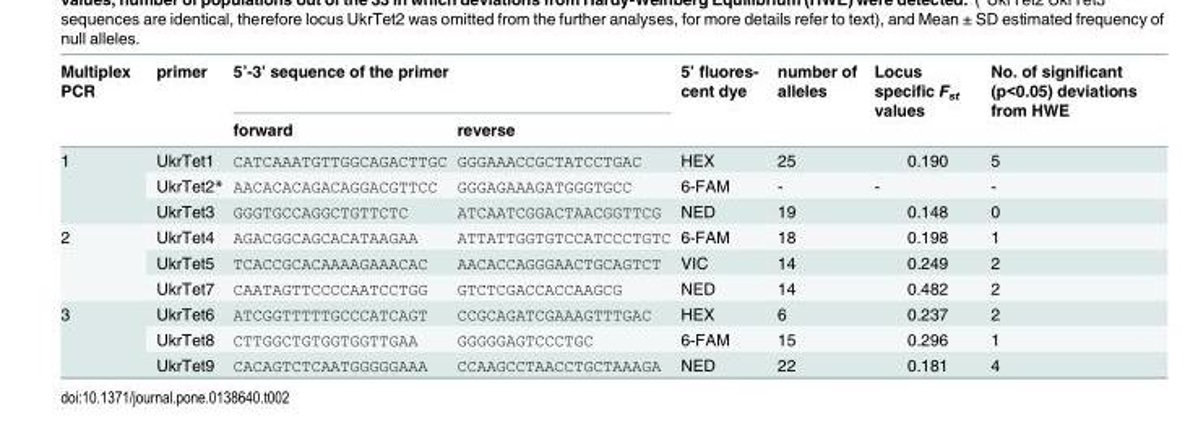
<table><thead><tr><td rowspan="2">Multiplex PCR</td><td rowspan="2">primer</td><td colspan="2">5’-3’ sequence of the primer</td><td rowspan="2">5’ fluores- cent dye</td><td rowspan="2">number of alleles</td><td rowspan="2">Locus specific F<sub>st</sub> values</td><td rowspan="2">No. of significant (p&lt;0.05) deviations from HWE</td></tr><tr><td>forward</td><td>reverse</td></tr></thead><tbody><tr><td rowspan="3">1</td><td>UkrTet1</td><td>CATCAAATGTTGGCAGACTTGC</td><td>GGGAAACCGCTATCCTGAC</td><td>HEX</td><td>25</td><td>0.190</td><td>5</td></tr><tr><td>UkrTet2*</td><td>AACACACAGACAGGACGTTCC</td><td>GGGAGAAAGATGGGTGCC</td><td>6-FAM</td><td>-</td><td>-</td><td>-</td></tr><tr><td>UkrTet3</td><td>GGGTGCCAGGCTGTTCTC</td><td>ATCAATCGGACTAACGGTTCG</td><td>NED</td><td>19</td><td>0.148</td><td>0</td></tr><tr><td rowspan="3">2</td><td>UkrTet4</td><td>AGACGGCAGCACATAAGAA</td><td>ATTATTGGTGTCCATCCCTGTC</td><td>6-FAM</td><td>18</td><td>0.198</td><td>1</td></tr><tr><td>UkrTet5</td><td>TCACCGCACAAAAGAAACAC</td><td>AACACCAGGGAACTGCAGTCT</td><td>VIC</td><td>14</td><td>0.249</td><td>2</td></tr><tr><td>UkrTet7</td><td>CAATAGTTCCCCAATCCTGG</td><td>GTCTCGACCACCAAGCG</td><td>NED</td><td>14</td><td>0.482</td><td>2</td></tr><tr><td rowspan="3">3</td><td>UkrTet6</td><td>ATCGGTTTTTGCCCATCAGT</td><td>CCGCAGATCGAAAGTTTGAC</td><td>HEX</td><td>6</td><td>0.237</td><td>2</td></tr><tr><td>UkrTet8</td><td>CTTGGCTGTGGTGGTTGAA</td><td>GGGGGAGTCCCTGC</td><td>6-FAM</td><td>15</td><td>0.296</td><td>1</td></tr><tr><td>UkrTet9</td><td>CACAGTCTCAATGGGGGAAA</td><td>CCAAGCCTAACCTGCTAAAGA</td><td>NED</td><td>22</td><td>0.181</td><td>4</td></tr></tbody></table>